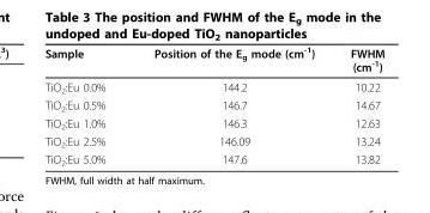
<table><thead><tr><td>Sample</td><td>Position of the E<sub>g</sub> mode (cm<sup>-1</sup>)</td><td>FWHM (cm<sup>-1</sup>)</td></tr></thead><tbody><tr><td>TiO<sub>2</sub>:Eu 0.0%</td><td>144.2</td><td>10.22</td></tr><tr><td>TiO<sub>2</sub>:Eu 0.5%</td><td>146.7</td><td>14.67</td></tr><tr><td>TiO<sub>2</sub>:Eu 1.0%</td><td>146.3</td><td>12.63</td></tr><tr><td>TiO<sub>2</sub>:Eu 2.5%</td><td>146.09</td><td>13.24</td></tr><tr><td>TiO<sub>2</sub>:Eu 5.0%</td><td>147.6</td><td>13.82</td></tr></tbody></table>